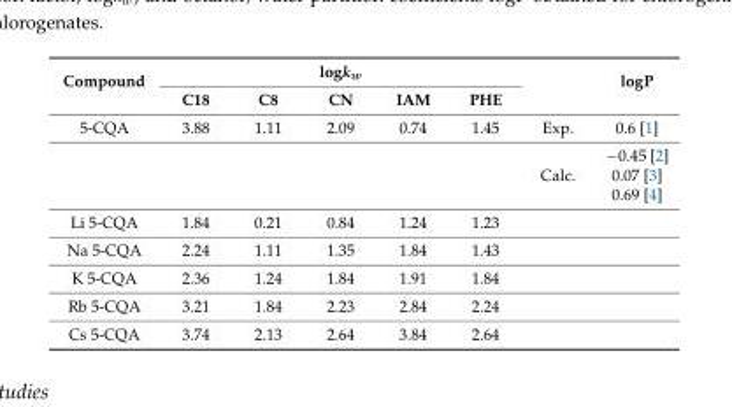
<table><thead><tr><td rowspan="2">Compound</td><td colspan="5">logk<sub>w</sub></td><td rowspan="2"></td><td rowspan="2">logP</td></tr><tr><td>C18</td><td>C8</td><td>CN</td><td>IAM</td><td>PHE</td></tr></thead><tbody><tr><td rowspan="2">5-CQA</td><td>3.88</td><td>1.11</td><td>2.09</td><td>0.74</td><td>1.45</td><td>Exp.</td><td>0.6 [1]</td></tr><tr><td></td><td></td><td></td><td></td><td></td><td>Calc.</td><td>−0.45 [2] 0.07 [3] 0.69 [4]</td></tr><tr><td>Li 5-CQA</td><td>1.84</td><td>0.21</td><td>0.84</td><td>1.24</td><td>1.23</td><td></td><td></td></tr><tr><td>Na 5-CQA</td><td>2.24</td><td>1.11</td><td>1.35</td><td>1.84</td><td>1.43</td><td></td><td></td></tr><tr><td>K 5-CQA</td><td>2.36</td><td>1.24</td><td>1.84</td><td>1.91</td><td>1.84</td><td></td><td></td></tr><tr><td>Rb 5-CQA</td><td>3.21</td><td>1.84</td><td>2.23</td><td>2.84</td><td>2.24</td><td></td><td></td></tr><tr><td>Cs 5-CQA</td><td>3.74</td><td>2.13</td><td>2.64</td><td>3.84</td><td>2.64</td><td></td><td></td></tr></tbody></table>